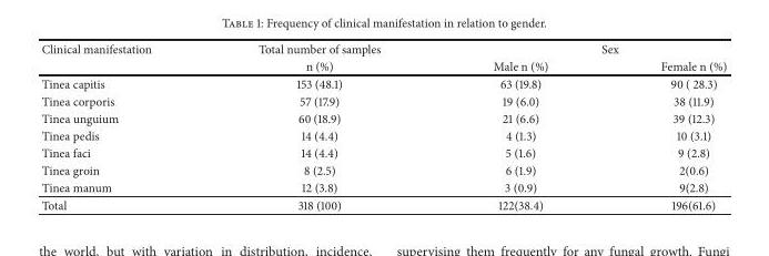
<table><thead><tr><td rowspan="2">Clinical manifestation</td><td rowspan="2">Total number of samples n (%)</td><td colspan="2">Sex</td></tr><tr><td>Male n (%)</td><td>Female n (%)</td></tr></thead><tbody><tr><td>Tinea capitis</td><td>153 (48.1)</td><td>63 (19.8)</td><td>90 ( 28.3)</td></tr><tr><td>Tinea corporis</td><td>57 (17.9)</td><td>19 (6.0)</td><td>38 (11.9)</td></tr><tr><td>Tinea unguium</td><td>60 (18.9)</td><td>21 (6.6)</td><td>39 (12.3)</td></tr><tr><td>Tinea pedis</td><td>14 (4.4)</td><td>4 (1.3)</td><td>10 (3.1)</td></tr><tr><td>Tinea faci</td><td>14 (4.4)</td><td>5 (1.6)</td><td>9 (2.8)</td></tr><tr><td>Tinea groin</td><td>8 (2.5)</td><td>6 (1.9)</td><td>2(0.6)</td></tr><tr><td>Tinea manum</td><td>12 (3.8)</td><td>3 (0.9)</td><td>9(2.8)</td></tr><tr><td>Total</td><td>318 (100)</td><td>122(38.4)</td><td>196(61.6)</td></tr></tbody></table>